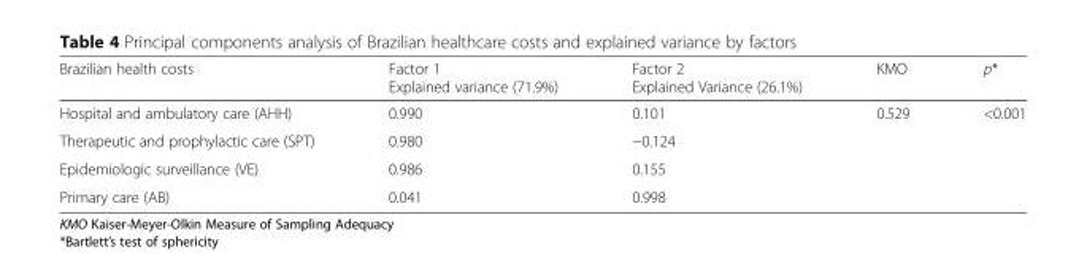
<table><thead><tr><td>Brazilian health costs</td><td>Factor 1 Explained variance (71.9%)</td><td>Factor 2 Explained Variance (26.1%)</td><td>KMO</td><td>p*</td></tr></thead><tbody><tr><td>Hospital and ambulatory care (AHH)</td><td>0.990</td><td>0.101</td><td rowspan="4">0.529</td><td rowspan="4">&lt;0.001</td></tr><tr><td>Therapeutic and prophylactic care (SPT)</td><td>0.980</td><td>−0.124</td></tr><tr><td>Epidemiologic surveillance (VE)</td><td>0.986</td><td>0.155</td></tr><tr><td>Primary care (AB)</td><td>0.041</td><td>0.998</td></tr></tbody></table>